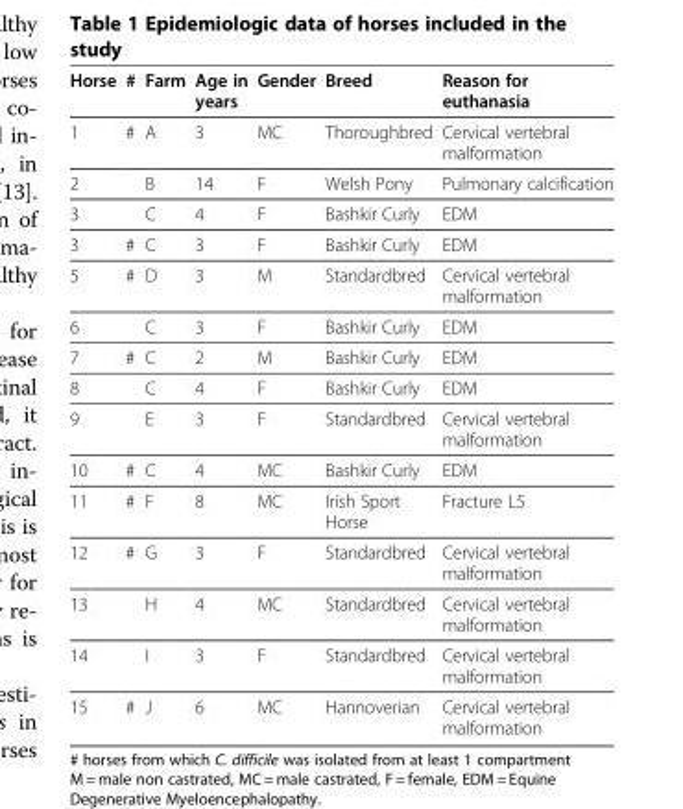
<table><thead><tr><td>Horse</td><td>#</td><td>Farm</td><td>Age in years</td><td>Gender</td><td>Breed</td><td>Reason for euthanasia</td></tr></thead><tbody><tr><td>1</td><td>#</td><td>A</td><td>3</td><td>MC</td><td>Thoroughbred</td><td>Cervical vertebral malformation</td></tr><tr><td>2</td><td></td><td>B</td><td>14</td><td>F</td><td>Welsh Pony</td><td>Pulmonary calcification</td></tr><tr><td>3</td><td></td><td>C</td><td>4</td><td>F</td><td>Bashkir Curly</td><td>EDM</td></tr><tr><td>3</td><td>#</td><td>C</td><td>3</td><td>F</td><td>Bashkir Curly</td><td>EDM</td></tr><tr><td>5</td><td>#</td><td>D</td><td>3</td><td>M</td><td>Standardbred</td><td>Cervical vertebral malformation</td></tr><tr><td>6</td><td></td><td>C</td><td>3</td><td>F</td><td>Bashkir Curly</td><td>EDM</td></tr><tr><td>7</td><td>#</td><td>C</td><td>2</td><td>M</td><td>Bashkir Curly</td><td>EDM</td></tr><tr><td>8</td><td></td><td>C</td><td>4</td><td>F</td><td>Bashkir Curly</td><td>EDM</td></tr><tr><td>9</td><td></td><td>E</td><td>3</td><td>F</td><td>Standardbred</td><td>Cervical vertebral malformation</td></tr><tr><td>10</td><td>#</td><td>C</td><td>4</td><td>MC</td><td>Bashkir Curly</td><td>EDM</td></tr><tr><td>11</td><td>#</td><td>F</td><td>8</td><td>MC</td><td>Irish Sport Horse</td><td>Fracture L5</td></tr><tr><td>12</td><td>#</td><td>G</td><td>3</td><td>F</td><td>Standardbred</td><td>Cervical vertebral malformation</td></tr><tr><td>13</td><td></td><td>H</td><td>4</td><td>MC</td><td>Standardbred</td><td>Cervical vertebral malformation</td></tr><tr><td>14</td><td></td><td>I</td><td>3</td><td>F</td><td>Standardbred</td><td>Cervical vertebral malformation</td></tr><tr><td>15</td><td>#</td><td>J</td><td>6</td><td>MC</td><td>Hannoverian</td><td>Cervical vertebral malformation</td></tr></tbody></table>